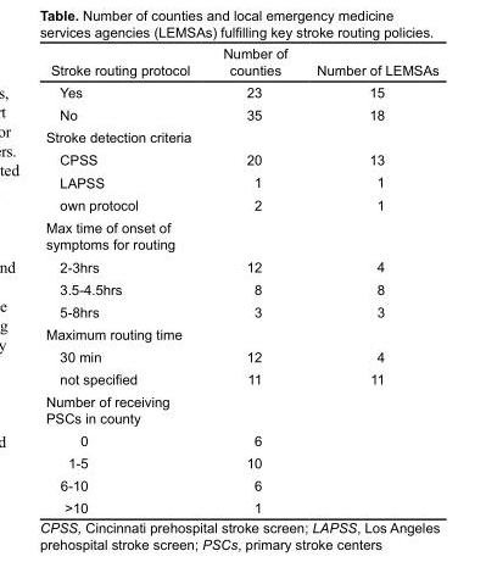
<table><thead><tr><td>Stroke routing protocol</td><td>Number of counties</td><td>Number of LEMSAs</td></tr></thead><tbody><tr><td>Yes</td><td>23</td><td>15</td></tr><tr><td>No</td><td>35</td><td>18</td></tr><tr><td colspan="3">Stroke detection criteria</td></tr><tr><td>CPSS</td><td>20</td><td>13</td></tr><tr><td>LAPSS</td><td>1</td><td>1</td></tr><tr><td>own protocol</td><td>2</td><td>1</td></tr><tr><td colspan="3">Max time of onset of symptoms for routing</td></tr><tr><td>2-3hrs</td><td>12</td><td>4</td></tr><tr><td>3.5-4.5hrs</td><td>8</td><td>8</td></tr><tr><td>5-8hrs</td><td>3</td><td>3</td></tr><tr><td colspan="3">Maximum routing time</td></tr><tr><td>30 min</td><td>12</td><td>4</td></tr><tr><td>not specified</td><td>11</td><td>11</td></tr><tr><td colspan="3">Number of receiving PSCs in county</td></tr><tr><td>0</td><td>6</td><td></td></tr><tr><td>1-5</td><td>10</td><td></td></tr><tr><td>6-10</td><td>6</td><td></td></tr><tr><td>&gt;10</td><td>1</td><td></td></tr></tbody></table>